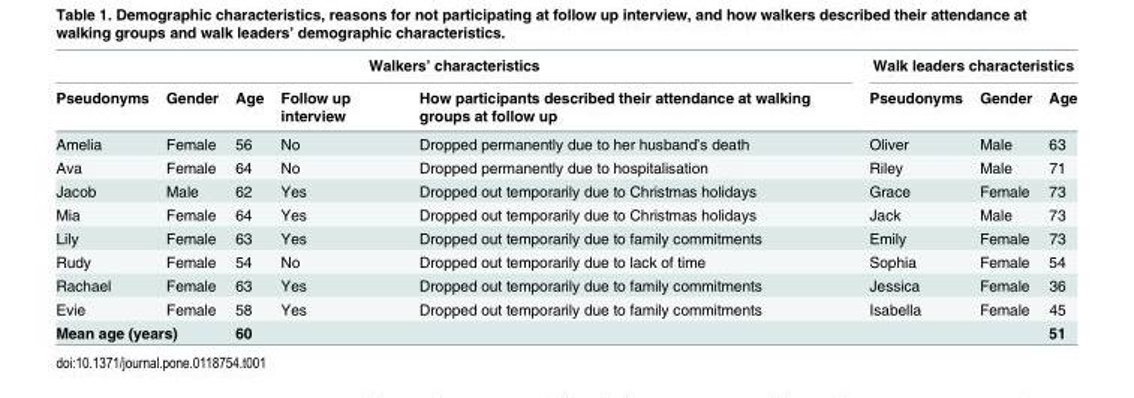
<table><thead><tr><td colspan="5">Walkers’ characteristics</td><td colspan="3">Walk leaders characteristics</td></tr><tr><td>Pseudonyms</td><td>Gender</td><td>Age</td><td>Follow up interview</td><td>How participants described their attendance at walking groups at follow up</td><td>Pseudonyms</td><td>Gender</td><td>Age</td></tr></thead><tbody><tr><td>Amelia</td><td>Female</td><td>56</td><td>No</td><td>Dropped permanently due to her husband’s death</td><td>Oliver</td><td>Male</td><td>63</td></tr><tr><td>Ava</td><td>Female</td><td>64</td><td>No</td><td>Dropped permanently due to hospitalisation</td><td>Riley</td><td>Male</td><td>71</td></tr><tr><td>Jacob</td><td>Male</td><td>62</td><td>Yes</td><td>Dropped out temporarily due to Christmas holidays</td><td>Grace</td><td>Female</td><td>73</td></tr><tr><td>Mia</td><td>Female</td><td>64</td><td>Yes</td><td>Dropped out temporarily due to Christmas holidays</td><td>Jack</td><td>Male</td><td>73</td></tr><tr><td>Lily</td><td>Female</td><td>63</td><td>Yes</td><td>Dropped out temporarily due to family commitments</td><td>Emily</td><td>Female</td><td>73</td></tr><tr><td>Rudy</td><td>Female</td><td>54</td><td>No</td><td>Dropped out temporarily due to lack of time</td><td>Sophia</td><td>Female</td><td>54</td></tr><tr><td>Rachael</td><td>Female</td><td>63</td><td>Yes</td><td>Dropped out temporarily due to family commitments</td><td>Jessica</td><td>Female</td><td>36</td></tr><tr><td>Evie</td><td>Female</td><td>58</td><td>Yes</td><td>Dropped out temporarily due to family commitments</td><td>Isabella</td><td>Female</td><td>45</td></tr><tr><td colspan="2">Mean age (years)</td><td>60</td><td></td><td></td><td></td><td></td><td>51</td></tr></tbody></table>